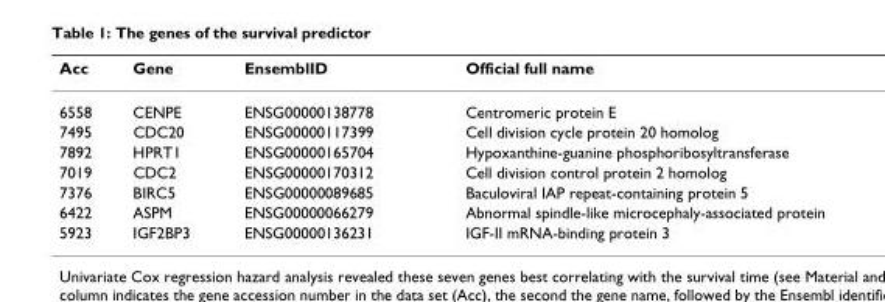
<table><thead><tr><td>Acc</td><td>Gene</td><td>EnsemblID</td><td>Official full name</td></tr></thead><tbody><tr><td>6558</td><td>CENPE</td><td>ENSG00000138778</td><td>Centromeric protein E</td></tr><tr><td>7495</td><td>CDC20</td><td>ENSG00000117399</td><td>Cell division cycle protein 20 homolog</td></tr><tr><td>7892</td><td>HPRT1</td><td>ENSG00000165704</td><td>Hypoxanthine-guanine phosphoribosyltransferase</td></tr><tr><td>7019</td><td>CDC2</td><td>ENSG00000170312</td><td>Cell division control protein 2 homolog</td></tr><tr><td>7376</td><td>BIRC5</td><td>ENSG00000089685</td><td>Baculoviral IAP repeat-containing protein 5</td></tr><tr><td>6422</td><td>ASPM</td><td>ENSG00000066279</td><td>Abnormal spindle-like microcephaly-associated protein</td></tr><tr><td>5923</td><td>IGF2BP3</td><td>ENSG00000136231</td><td>IGF-II mRNA-binding protein 3</td></tr></tbody></table>